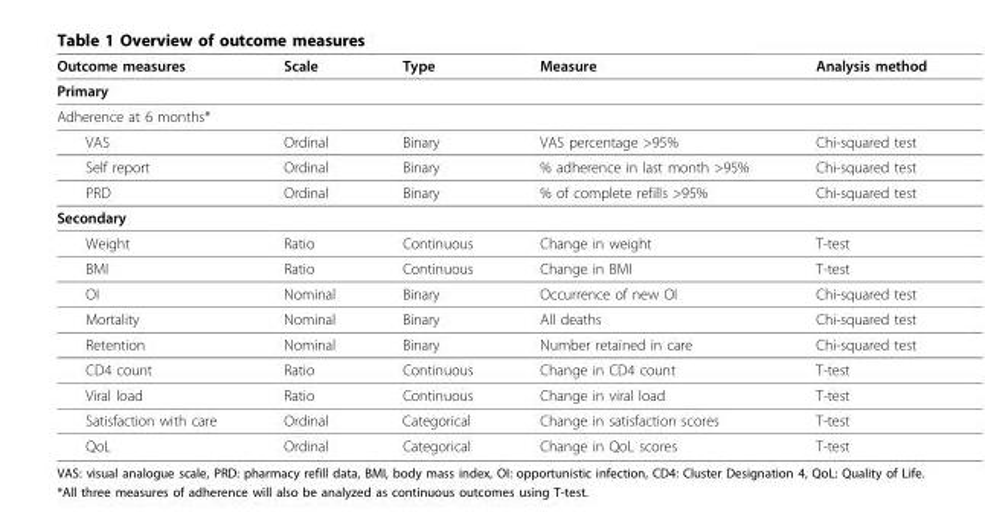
<table><thead><tr><td>Outcome measures</td><td>Scale</td><td>Type</td><td>Measure</td><td>Analysis method</td></tr></thead><tbody><tr><td colspan="5">Primary</td></tr><tr><td colspan="5">Adherence at 6 months*</td></tr><tr><td>VAS</td><td>Ordinal</td><td>Binary</td><td>VAS percentage &gt;95%</td><td>Chi-squared test</td></tr><tr><td>Self report</td><td>Ordinal</td><td>Binary</td><td>% adherence in last month &gt;95%</td><td>Chi-squared test</td></tr><tr><td>PRD</td><td>Ordinal</td><td>Binary</td><td>% of complete refills &gt;95%</td><td>Chi-squared test</td></tr><tr><td colspan="5">Secondary</td></tr><tr><td>Weight</td><td>Ratio</td><td>Continuous</td><td>Change in weight</td><td>T-test</td></tr><tr><td>BMI</td><td>Ratio</td><td>Continuous</td><td>Change in BMI</td><td>T-test</td></tr><tr><td>OI</td><td>Nominal</td><td>Binary</td><td>Occurrence of new OI</td><td>Chi-squared test</td></tr><tr><td>Mortality</td><td>Nominal</td><td>Binary</td><td>All deaths</td><td>Chi-squared test</td></tr><tr><td>Retention</td><td>Nominal</td><td>Binary</td><td>Number retained in care</td><td>Chi-squared test</td></tr><tr><td>CD4 count</td><td>Ratio</td><td>Continuous</td><td>Change in CD4 count</td><td>T-test</td></tr><tr><td>Viral load</td><td>Ratio</td><td>Continuous</td><td>Change in viral load</td><td>T-test</td></tr><tr><td>Satisfaction with care</td><td>Ordinal</td><td>Categorical</td><td>Change in satisfaction scores</td><td>T-test</td></tr><tr><td>QoL</td><td>Ordinal</td><td>Categorical</td><td>Change in QoL scores</td><td>T-test</td></tr></tbody></table>